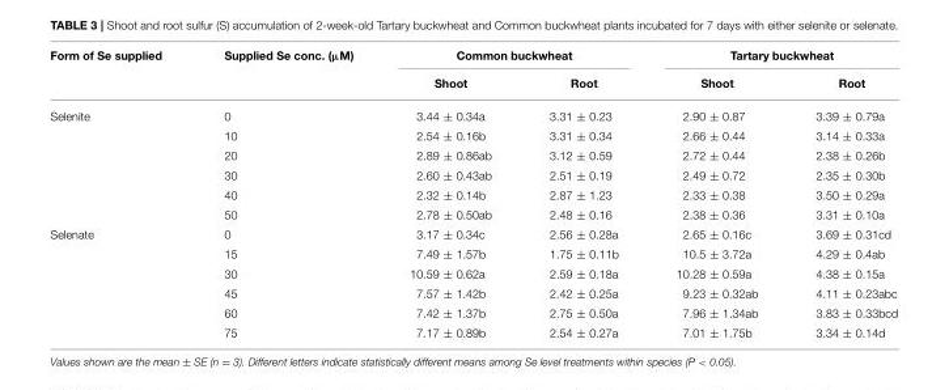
<table><thead><tr><td rowspan="2">Form of Se supplied</td><td rowspan="2">Supplied Se conc. (µM)</td><td colspan="2">Common buckwheat</td><td colspan="2">Tartary buckwheat</td></tr><tr><td>Shoot</td><td>Root</td><td>Shoot</td><td>Root</td></tr></thead><tbody><tr><td rowspan="6">Selenite</td><td>0</td><td>3.44 ± 0.34a</td><td>3.31 ± 0.23</td><td>2.90 ± 0.87</td><td>3.39 ± 0.79a</td></tr><tr><td>10</td><td>2.54 ± 0.16b</td><td>3.31 ± 0.34</td><td>2.66 ± 0.44</td><td>3.14 ± 0.33a</td></tr><tr><td>20</td><td>2.89 ± 0.86ab</td><td>3.12 ± 0.59</td><td>2.72 ± 0.44</td><td>2.38 ± 0.26b</td></tr><tr><td>30</td><td>2.60 ± 0.43ab</td><td>2.51 ± 0.19</td><td>2.49 ± 0.72</td><td>2.35 ± 0.30b</td></tr><tr><td>40</td><td>2.32 ± 0.14b</td><td>2.87 ± 1.23</td><td>2.33 ± 0.38</td><td>3.50 ± 0.29a</td></tr><tr><td>50</td><td>2.78 ± 0.50ab</td><td>2.48 ± 0.16</td><td>2.38 ± 0.36</td><td>3.31 ± 0.10a</td></tr><tr><td rowspan="6">Selenate</td><td>0</td><td>3.17 ± 0.34c</td><td>2.56 ± 0.28a</td><td>2.65 ± 0.16c</td><td>3.69 ± 0.31cd</td></tr><tr><td>15</td><td>7.49 ± 1.57b</td><td>1.75 ± 0.11b</td><td>10.5 ± 3.72a</td><td>4.29 ± 0.4ab</td></tr><tr><td>30</td><td>10.59 ± 0.62a</td><td>2.59 ± 0.18a</td><td>10.28 ± 0.59a</td><td>4.38 ± 0.15a</td></tr><tr><td>45</td><td>7.57 ± 1.42b</td><td>2.42 ± 0.25a</td><td>9.23 ± 0.32ab</td><td>4.11 ± 0.23abc</td></tr><tr><td>60</td><td>7.42 ± 1.37b</td><td>2.75 ± 0.50a</td><td>7.96 ± 1.34ab</td><td>3.83 ± 0.33bcd</td></tr><tr><td>75</td><td>7.17 ± 0.89b</td><td>2.54 ± 0.27a</td><td>7.01 ± 1.75b</td><td>3.34 ± 0.14d</td></tr></tbody></table>